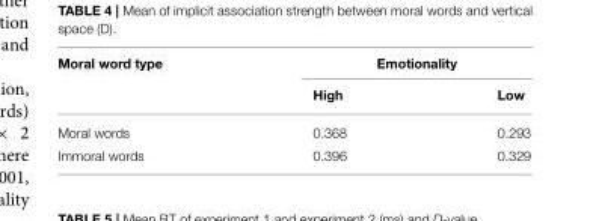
<table><thead><tr><td rowspan="2">Moral word type</td><td colspan="2">Emotionality</td></tr><tr><td>High</td><td>Low</td></tr></thead><tbody><tr><td>Moral words</td><td>0.368</td><td>0.293</td></tr><tr><td>Immoral words</td><td>0.396</td><td>0.329</td></tr></tbody></table>